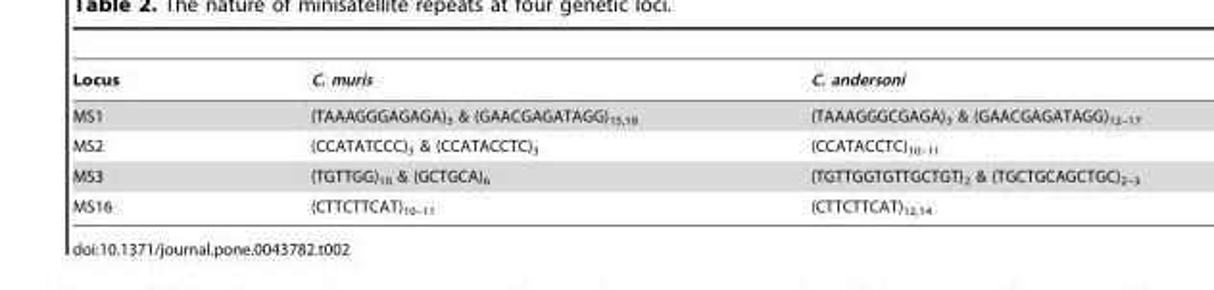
<table><thead><tr><td>Locus</td><td>C. muris</td><td>C. andersoni</td></tr></thead><tbody><tr><td>MS1</td><td>(TAAAGGGAGAGA)<sub>3</sub> &amp; (GAACGAGATAGG)<sub>15,18</sub></td><td>(TAAAGGGCGAGA)<sub>3</sub> &amp; (GAACGAGATAGG)<sub>12–17</sub></td></tr><tr><td>MS2</td><td>(CCATATCCC)<sub>3</sub> &amp; (CCATACCTC)<sub>3</sub></td><td>(CCATACCTC)<sub>10–11</sub></td></tr><tr><td>MS3</td><td>(TGTTGG)<sub>10</sub> &amp; (GCTGCA)<sub>6</sub></td><td>(TGTTGGTGTTGCTGT)<sub>2</sub> &amp; (TGCTGCAGCTGC)<sub>2–3</sub></td></tr><tr><td>MS16</td><td>(CTTCTTCAT)<sub>10–11</sub></td><td>(CTTCTTCAT)<sub>12,14</sub></td></tr></tbody></table>